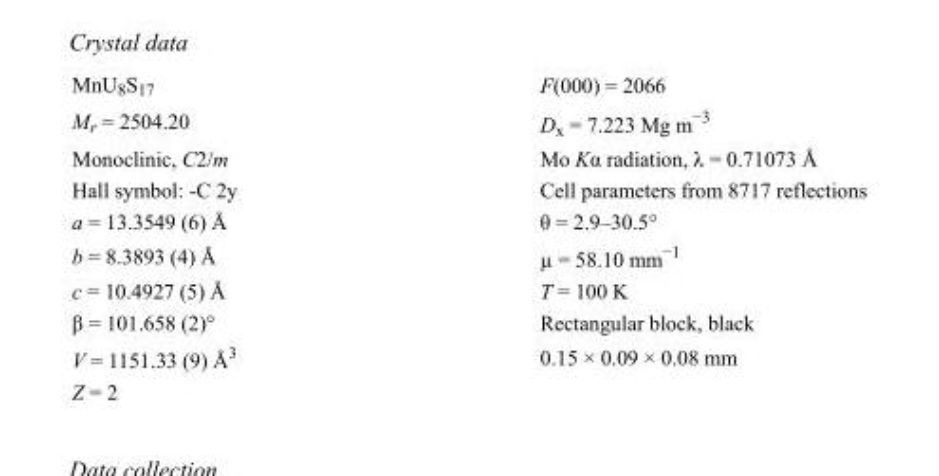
<table><tbody><tr><td>MnU<sub>8</sub>S<sub>17</sub></td><td>F(000) = 2066</td></tr><tr><td>M<sub>r</sub> = 2504.20</td><td>D<sub>x</sub> = 7.223 Mg m<sup>−3</sup></td></tr><tr><td>Monoclinic, C2/m</td><td>Mo Kα radiation, λ = 0.71073 Å</td></tr><tr><td>Hall symbol: -C 2y</td><td>Cell parameters from 8717 reflections</td></tr><tr><td>a = 13.3549 (6) Å</td><td>θ = 2.9–30.5°</td></tr><tr><td>b = 8.3893 (4) Å</td><td>µ = 58.10 mm<sup>−1</sup></td></tr><tr><td>c = 10.4927 (5) Å</td><td>T = 100 K</td></tr><tr><td>β = 101.658 (2)°</td><td>Rectangular block, black</td></tr><tr><td>V = 1151.33 (9) Å<sup>3</sup></td><td>0.15 × 0.09 × 0.08 mm</td></tr><tr><td>Z = 2</td><td></td></tr></tbody></table>